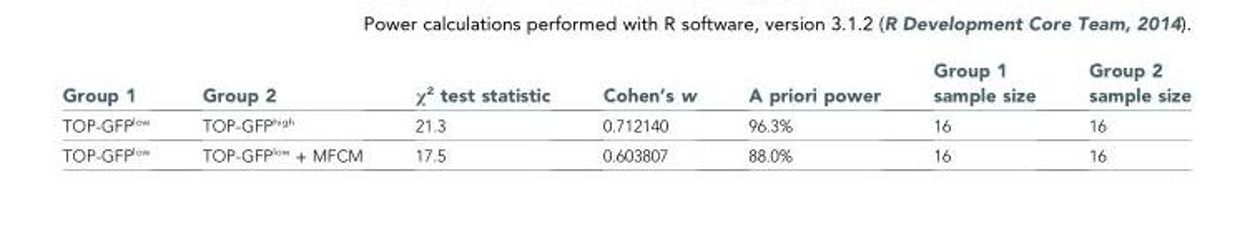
<table><thead><tr><td>Group 1</td><td>Group 2</td><td>χ<sup>2</sup> test statistic</td><td>Cohen’s w</td><td>A priori power</td><td>Group 1 sample size</td><td>Group 2 sample size</td></tr></thead><tbody><tr><td>TOP-GFP<sup>low</sup></td><td>TOP-GFP<sup>high</sup></td><td>21.3</td><td>0.712140</td><td>96.3%</td><td>16</td><td>16</td></tr><tr><td>TOP-GFP<sup>low</sup></td><td>TOP-GFP<sup>low</sup> + MFCM</td><td>17.5</td><td>0.603807</td><td>88.0%</td><td>16</td><td>16</td></tr></tbody></table>